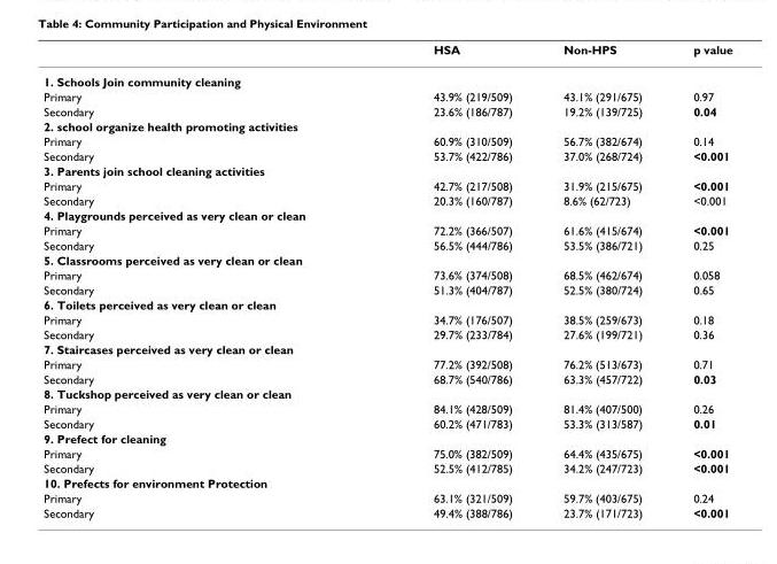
<table><thead><tr><td></td><td>HSA</td><td>Non-HPS</td><td>p value</td></tr></thead><tbody><tr><td colspan="4">1. Schools Join community cleaning</td></tr><tr><td>Primary</td><td>43.9% (219/509)</td><td>43.1% (291/675)</td><td>0.97</td></tr><tr><td>Secondary</td><td>23.6% (186/787)</td><td>19.2% (139/725)</td><td>0.04</td></tr><tr><td colspan="4">2. school organize health promoting activities</td></tr><tr><td>Primary</td><td>60.9% (310/509)</td><td>56.7% (382/674)</td><td>0.14</td></tr><tr><td>Secondary</td><td>53.7% (422/786)</td><td>37.0% (268/724)</td><td>&lt;0.001</td></tr><tr><td colspan="4">3. Parents join school cleaning activities</td></tr><tr><td>Primary</td><td>42.7% (217/508)</td><td>31.9% (215/675)</td><td>&lt;0.001</td></tr><tr><td>Secondary</td><td>20.3% (160/787)</td><td>8.6% (62/723)</td><td>&lt;0.001</td></tr><tr><td colspan="4">4. Playgrounds perceived as very clean or clean</td></tr><tr><td>Primary</td><td>72.2% (366/507)</td><td>61.6% (415/674)</td><td>&lt;0.001</td></tr><tr><td>Secondary</td><td>56.5% (444/786)</td><td>53.5% (386/721)</td><td>0.25</td></tr><tr><td colspan="4">5. Classrooms perceived as very clean or clean</td></tr><tr><td>Primary</td><td>73.6% (374/508)</td><td>68.5% (462/674)</td><td>0.058</td></tr><tr><td>Secondary</td><td>51.3% (404/787)</td><td>52.5% (380/724)</td><td>0.65</td></tr><tr><td colspan="4">6. Toilets perceived as very clean or clean</td></tr><tr><td>Primary</td><td>34.7% (176/507)</td><td>38.5% (259/673)</td><td>0.18</td></tr><tr><td>Secondary</td><td>29.7% (233/784)</td><td>27.6% (199/721)</td><td>0.36</td></tr><tr><td colspan="4">7. Staircases perceived as very clean or clean</td></tr><tr><td>Primary</td><td>77.2% (392/508)</td><td>76.2% (513/673)</td><td>0.71</td></tr><tr><td>Secondary</td><td>68.7% (540/786)</td><td>63.3% (457/722)</td><td>0.03</td></tr><tr><td colspan="4">8. Tuckshop perceived as very clean or clean</td></tr><tr><td>Primary</td><td>84.1% (428/509)</td><td>81.4% (407/500)</td><td>0.26</td></tr><tr><td>Secondary</td><td>60.2% (471/783)</td><td>53.3% (313/587)</td><td>0.01</td></tr><tr><td colspan="4">9. Prefect for cleaning</td></tr><tr><td>Primary</td><td>75.0% (382/509)</td><td>64.4% (435/675)</td><td>&lt;0.001</td></tr><tr><td>Secondary</td><td>52.5% (412/785)</td><td>34.2% (247/723)</td><td>&lt;0.001</td></tr><tr><td colspan="4">10. Prefects for environment Protection</td></tr><tr><td>Primary</td><td>63.1% (321/509)</td><td>59.7% (403/675)</td><td>0.24</td></tr><tr><td>Secondary</td><td>49.4% (388/786)</td><td>23.7% (171/723)</td><td>&lt;0.001</td></tr></tbody></table>